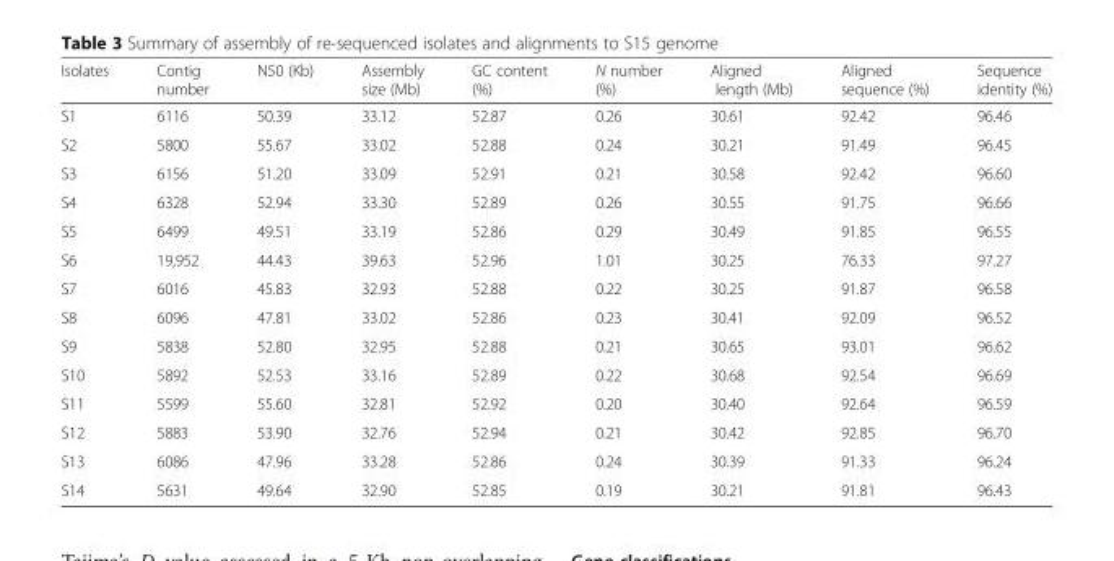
<table><thead><tr><td>Isolates</td><td>Contig number</td><td>N50 (Kb)</td><td>Assembly size (Mb)</td><td>GC content (%)</td><td>N number (%)</td><td>Aligned length (Mb)</td><td>Aligned sequence (%)</td><td>Sequence identity (%)</td></tr></thead><tbody><tr><td>S1</td><td>6116</td><td>50.39</td><td>33.12</td><td>52.87</td><td>0.26</td><td>30.61</td><td>92.42</td><td>96.46</td></tr><tr><td>S2</td><td>5800</td><td>55.67</td><td>33.02</td><td>52.88</td><td>0.24</td><td>30.21</td><td>91.49</td><td>96.45</td></tr><tr><td>S3</td><td>6156</td><td>51.20</td><td>33.09</td><td>52.91</td><td>0.21</td><td>30.58</td><td>92.42</td><td>96.60</td></tr><tr><td>S4</td><td>6328</td><td>52.94</td><td>33.30</td><td>52.89</td><td>0.26</td><td>30.55</td><td>91.75</td><td>96.66</td></tr><tr><td>S5</td><td>6499</td><td>49.51</td><td>33.19</td><td>52.86</td><td>0.29</td><td>30.49</td><td>91.85</td><td>96.55</td></tr><tr><td>S6</td><td>19,952</td><td>44.43</td><td>39.63</td><td>52.96</td><td>1.01</td><td>30.25</td><td>76.33</td><td>97.27</td></tr><tr><td>S7</td><td>6016</td><td>45.83</td><td>32.93</td><td>52.88</td><td>0.22</td><td>30.25</td><td>91.87</td><td>96.58</td></tr><tr><td>S8</td><td>6096</td><td>47.81</td><td>33.02</td><td>52.86</td><td>0.23</td><td>30.41</td><td>92.09</td><td>96.52</td></tr><tr><td>S9</td><td>5838</td><td>52.80</td><td>32.95</td><td>52.88</td><td>0.21</td><td>30.65</td><td>93.01</td><td>96.62</td></tr><tr><td>S10</td><td>5892</td><td>52.53</td><td>33.16</td><td>52.89</td><td>0.22</td><td>30.68</td><td>92.54</td><td>96.69</td></tr><tr><td>S11</td><td>5599</td><td>55.60</td><td>32.81</td><td>52.92</td><td>0.20</td><td>30.40</td><td>92.64</td><td>96.59</td></tr><tr><td>S12</td><td>5883</td><td>53.90</td><td>32.76</td><td>52.94</td><td>0.21</td><td>30.42</td><td>92.85</td><td>96.70</td></tr><tr><td>S13</td><td>6086</td><td>47.96</td><td>33.28</td><td>52.86</td><td>0.24</td><td>30.39</td><td>91.33</td><td>96.24</td></tr><tr><td>S14</td><td>5631</td><td>49.64</td><td>32.90</td><td>52.85</td><td>0.19</td><td>30.21</td><td>91.81</td><td>96.43</td></tr></tbody></table>